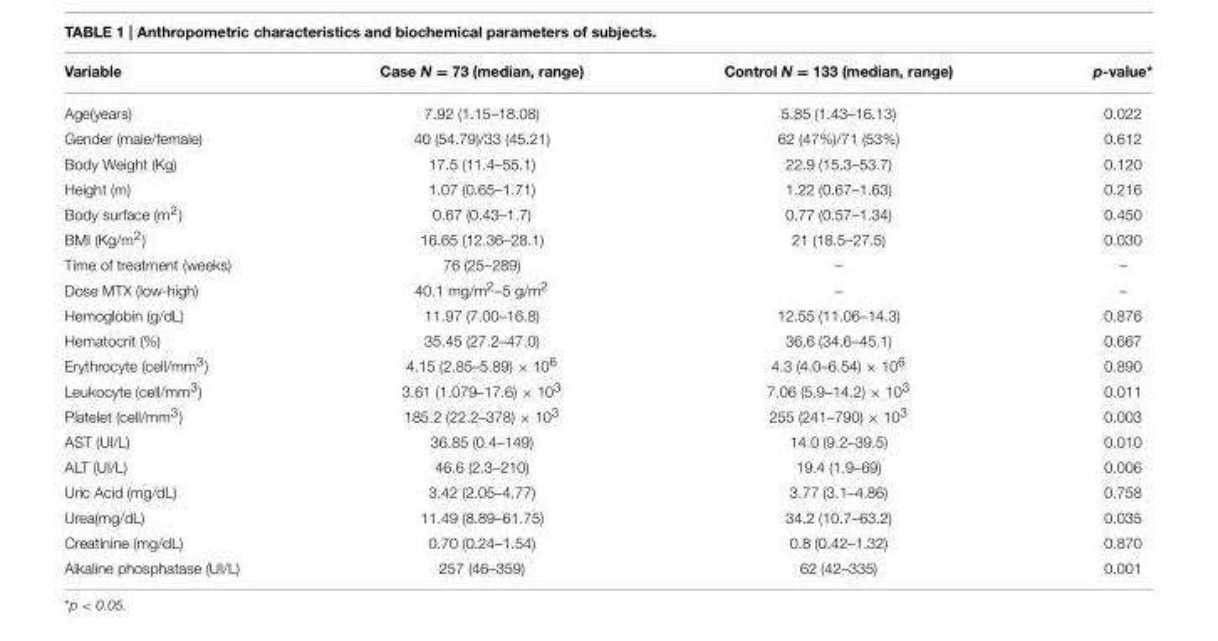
<table><thead><tr><td>Variable</td><td>Case N = 73 (median, range)</td><td>Control N = 133 (median, range)</td><td>p-value*</td></tr></thead><tbody><tr><td>Age(years)</td><td>7.92 (1.15–18.08)</td><td>5.85 (1.43–16.13)</td><td>0.022</td></tr><tr><td>Gender (male/female)</td><td>40 (54.79)/33 (45.21)</td><td>62 (47%)/71 (53%)</td><td>0.612</td></tr><tr><td>Body Weight (Kg)</td><td>17.5 (11.4–55.1)</td><td>22.9 (15.3–53.7)</td><td>0.120</td></tr><tr><td>Height (m)</td><td>1.07 (0.65–1.71)</td><td>1.22 (0.67–1.63)</td><td>0.216</td></tr><tr><td>Body surface (m<sup>2</sup>)</td><td>0.67 (0.43–1.7)</td><td>0.77 (0.57–1.34)</td><td>0.450</td></tr><tr><td>BMI (Kg/m<sup>2</sup>)</td><td>16.65 (12.36–28.1)</td><td>21 (18.5–27.5)</td><td>0.030</td></tr><tr><td>Time of treatment (weeks)</td><td>76 (25–289)</td><td>–</td><td>–</td></tr><tr><td>Dose MTX (low-high)</td><td>40.1 mg/m<sup>2</sup>–5 g/m<sup>2</sup></td><td>–</td><td>–</td></tr><tr><td>Hemoglobin (g/dL)</td><td>11.97 (7.00–16.8)</td><td>12.55 (11.06–14.3)</td><td>0.876</td></tr><tr><td>Hematocrit (%)</td><td>35.45 (27.2–47.0)</td><td>36.6 (34.6–45.1)</td><td>0.667</td></tr><tr><td>Erythrocyte (cell/mm<sup>3</sup>)</td><td>4.15 (2.85–5.89) × 10<sup>6</sup></td><td>4.3 (4.0–6.54) × 10<sup>6</sup></td><td>0.890</td></tr><tr><td>Leukocyte (cell/mm<sup>3</sup>)</td><td>3.61 (1.079–17.6) × 10<sup>3</sup></td><td>7.06 (5.9–14.2) × 10<sup>3</sup></td><td>0.011</td></tr><tr><td>Platelet (cell/mm<sup>3</sup>)</td><td>185.2 (22.2–378) × 10<sup>3</sup></td><td>255 (241–790) × 10<sup>3</sup></td><td>0.003</td></tr><tr><td>AST (UI/L)</td><td>36.85 (0.4–149)</td><td>14.0 (9.2–39.5)</td><td>0.010</td></tr><tr><td>ALT (UI/L)</td><td>46.6 (2.3–210)</td><td>19.4 (1.9–69)</td><td>0.006</td></tr><tr><td>Uric Acid (mg/dL)</td><td>3.42 (2.05–4.77)</td><td>3.77 (3.1–4.86)</td><td>0.758</td></tr><tr><td>Urea(mg/dL)</td><td>11.49 (8.89–61.75)</td><td>34.2 (10.7–63.2)</td><td>0.035</td></tr><tr><td>Creatinine (mg/dL)</td><td>0.70 (0.24–1.54)</td><td>0.8 (0.42–1.32)</td><td>0.870</td></tr><tr><td>Alkaline phosphatase (UI/L)</td><td>257 (46–359)</td><td>62 (42–335)</td><td>0.001</td></tr></tbody></table>